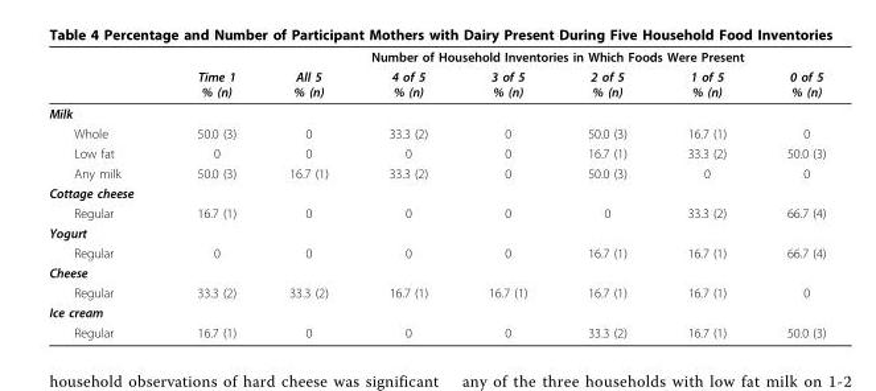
<table><thead><tr><td rowspan="2"></td><td rowspan="2">Time 1 % (n)</td><td colspan="6">Number of Household Inventories in Which Foods Were Present</td></tr><tr><td>All 5 % (n)</td><td>4 of 5 % (n)</td><td>3 of 5 % (n)</td><td>2 of 5 % (n)</td><td>1 of 5 % (n)</td><td>0 of 5 % (n)</td></tr></thead><tbody><tr><td colspan="8">Milk</td></tr><tr><td>Whole</td><td>50.0 (3)</td><td>0</td><td>33.3 (2)</td><td>0</td><td>50.0 (3)</td><td>16.7 (1)</td><td>0</td></tr><tr><td>Low fat</td><td>0</td><td>0</td><td>0</td><td>0</td><td>16.7 (1)</td><td>33.3 (2)</td><td>50.0 (3)</td></tr><tr><td>Any milk</td><td>50.0 (3)</td><td>16.7 (1)</td><td>33.3 (2)</td><td>0</td><td>50.0 (3)</td><td>0</td><td>0</td></tr><tr><td colspan="8">Cottage cheese</td></tr><tr><td>Regular</td><td>16.7 (1)</td><td>0</td><td>0</td><td>0</td><td>0</td><td>33.3 (2)</td><td>66.7 (4)</td></tr><tr><td colspan="8">Yogurt</td></tr><tr><td>Regular</td><td>0</td><td>0</td><td>0</td><td>0</td><td>16.7 (1)</td><td>16.7 (1)</td><td>66.7 (4)</td></tr><tr><td colspan="8">Cheese</td></tr><tr><td>Regular</td><td>33.3 (2)</td><td>33.3 (2)</td><td>16.7 (1)</td><td>16.7 (1)</td><td>16.7 (1)</td><td>16.7 (1)</td><td>0</td></tr><tr><td colspan="8">Ice cream</td></tr><tr><td>Regular</td><td>16.7 (1)</td><td>0</td><td>0</td><td>0</td><td>33.3 (2)</td><td>16.7 (1)</td><td>50.0 (3)</td></tr></tbody></table>